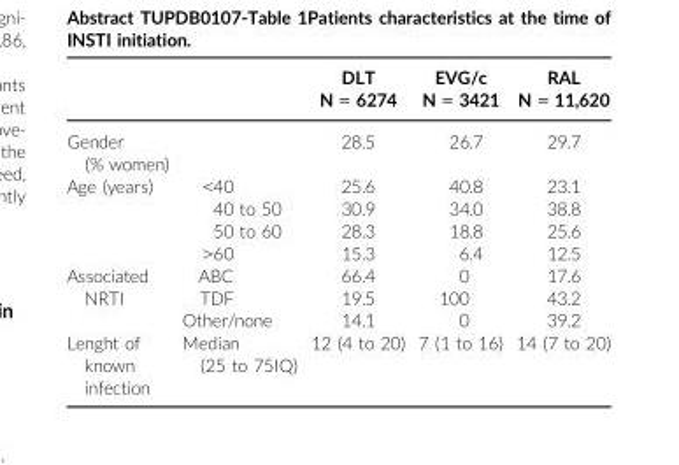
<table><thead><tr><td></td><td></td><td>DLT N = 6274</td><td>EVG/c N = 3421</td><td>RAL N = 11,620</td></tr></thead><tbody><tr><td>Gender (% women)</td><td></td><td>28.5</td><td>26.7</td><td>29.7</td></tr><tr><td rowspan="4">Age (years)</td><td>&lt;40</td><td>25.6</td><td>40.8</td><td>23.1</td></tr><tr><td>40 to 50</td><td>30.9</td><td>34.0</td><td>38.8</td></tr><tr><td>50 to 60</td><td>28.3</td><td>18.8</td><td>25.6</td></tr><tr><td>&gt;60</td><td>15.3</td><td>6.4</td><td>12.5</td></tr><tr><td rowspan="3">Associated NRTI</td><td>ABC</td><td>66.4</td><td>0</td><td>17.6</td></tr><tr><td>TDF</td><td>19.5</td><td>100</td><td>43.2</td></tr><tr><td>Other/none</td><td>14.1</td><td>0</td><td>39.2</td></tr><tr><td>Lenght of known infection</td><td>Median (25 to 75IQ)</td><td>12 (4 to 20)</td><td>7 (1 to 16)</td><td>14 (7 to 20)</td></tr></tbody></table>